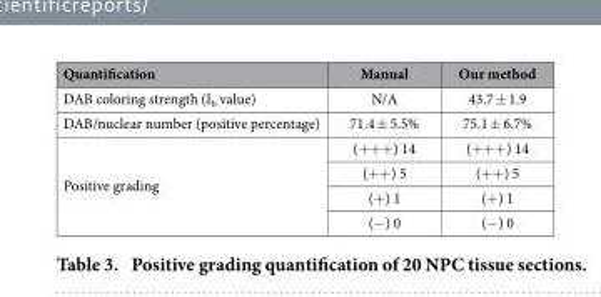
<table><thead><tr><td>Quantification</td><td>Manual</td><td>Our method</td></tr></thead><tbody><tr><td>DAB coloring strength (I<sub>b</sub> value)</td><td>N/A</td><td>43.7 ± 1.9</td></tr><tr><td>DAB/nuclear number (positive percentage)</td><td>71.4 ± 5.5%</td><td>75.1 ± 6.7%</td></tr><tr><td rowspan="4">Positive grading</td><td>(+ + + ) 14</td><td>(+ + + ) 14</td></tr><tr><td>(+ + ) 5</td><td>(+ + ) 5</td></tr><tr><td>(+ ) 1</td><td>(+ ) 1</td></tr><tr><td>(− ) 0</td><td>(− ) 0</td></tr></tbody></table>